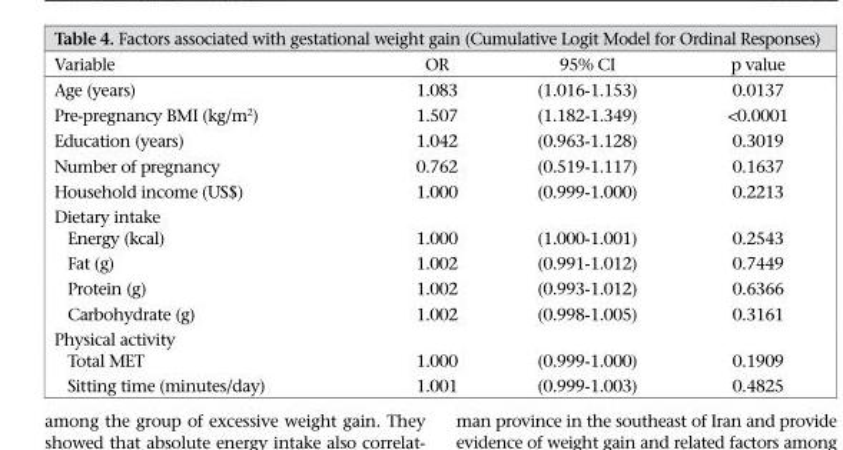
<table><thead><tr><td>Variable</td><td>OR</td><td>95% CI</td><td>p value</td></tr></thead><tbody><tr><td>Age (years)</td><td>1.083</td><td>(1.016-1.153)</td><td>0.0137</td></tr><tr><td>Pre-pregnancy BMI (kg/m<sup>2</sup>)</td><td>1.507</td><td>(1.182-1.349)</td><td>&lt;0.0001</td></tr><tr><td>Education (years)</td><td>1.042</td><td>(0.963-1.128)</td><td>0.3019</td></tr><tr><td>Number of pregnancy</td><td>0.762</td><td>(0.519-1.117)</td><td>0.1637</td></tr><tr><td>Household income (US$)</td><td>1.000</td><td>(0.999-1.000)</td><td>0.2213</td></tr><tr><td colspan="4">Dietary intake</td></tr><tr><td>Energy (kcal)</td><td>1.000</td><td>(1.000-1.001)</td><td>0.2543</td></tr><tr><td>Fat (g)</td><td>1.002</td><td>(0.991-1.012)</td><td>0.7449</td></tr><tr><td>Protein (g)</td><td>1.002</td><td>(0.993-1.012)</td><td>0.6366</td></tr><tr><td>Carbohydrate (g)</td><td>1.002</td><td>(0.998-1.005)</td><td>0.3161</td></tr><tr><td colspan="4">Physical activity</td></tr><tr><td>Total MET</td><td>1.000</td><td>(0.999-1.000)</td><td>0.1909</td></tr><tr><td>Sitting time (minutes/day)</td><td>1.001</td><td>(0.999-1.003)</td><td>0.4825</td></tr></tbody></table>